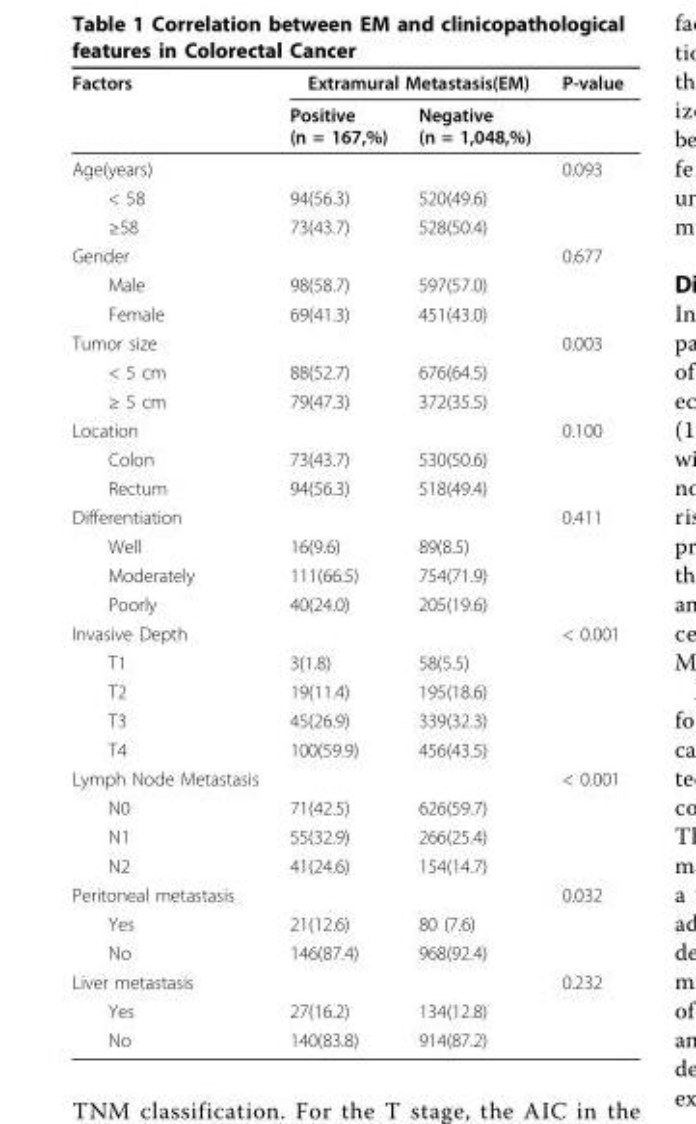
<table><thead><tr><td rowspan="2">Factors</td><td colspan="2">Extramural Metastasis(EM)</td><td rowspan="2">P-value</td></tr><tr><td>Positive (n = 167,%)</td><td>Negative (n = 1,048,%)</td></tr></thead><tbody><tr><td>Age(years)</td><td></td><td></td><td>0.093</td></tr><tr><td>&lt; 58</td><td>94(56.3)</td><td>520(49.6)</td><td></td></tr><tr><td>≥58</td><td>73(43.7)</td><td>528(50.4)</td><td></td></tr><tr><td>Gender</td><td></td><td></td><td>0.677</td></tr><tr><td>Male</td><td>98(58.7)</td><td>597(57.0)</td><td></td></tr><tr><td>Female</td><td>69(41.3)</td><td>451(43.0)</td><td></td></tr><tr><td>Tumor size</td><td></td><td></td><td>0.003</td></tr><tr><td>&lt; 5 cm</td><td>88(52.7)</td><td>676(64.5)</td><td></td></tr><tr><td>≥ 5 cm</td><td>79(47.3)</td><td>372(35.5)</td><td></td></tr><tr><td>Location</td><td></td><td></td><td>0.100</td></tr><tr><td>Colon</td><td>73(43.7)</td><td>530(50.6)</td><td></td></tr><tr><td>Rectum</td><td>94(56.3)</td><td>518(49.4)</td><td></td></tr><tr><td>Differentiation</td><td></td><td></td><td>0.411</td></tr><tr><td>Well</td><td>16(9.6)</td><td>89(8.5)</td><td></td></tr><tr><td>Moderately</td><td>111(66.5)</td><td>754(71.9)</td><td></td></tr><tr><td>Poorly</td><td>40(24.0)</td><td>205(19.6)</td><td></td></tr><tr><td>Invasive Depth</td><td></td><td></td><td>&lt; 0.001</td></tr><tr><td>T1</td><td>3(1.8)</td><td>58(5.5)</td><td></td></tr><tr><td>T2</td><td>19(11.4)</td><td>195(18.6)</td><td></td></tr><tr><td>T3</td><td>45(26.9)</td><td>339(32.3)</td><td></td></tr><tr><td>T4</td><td>100(59.9)</td><td>456(43.5)</td><td></td></tr><tr><td>Lymph Node Metastasis</td><td></td><td></td><td>&lt; 0.001</td></tr><tr><td>N0</td><td>71(42.5)</td><td>626(59.7)</td><td></td></tr><tr><td>N1</td><td>55(32.9)</td><td>266(25.4)</td><td></td></tr><tr><td>N2</td><td>41(24.6)</td><td>154(14.7)</td><td></td></tr><tr><td>Peritoneal metastasis</td><td></td><td></td><td>0.032</td></tr><tr><td>Yes</td><td>21(12.6)</td><td>80 (7.6)</td><td></td></tr><tr><td>No</td><td>146(87.4)</td><td>968(92.4)</td><td></td></tr><tr><td>Liver metastasis</td><td></td><td></td><td>0.232</td></tr><tr><td>Yes</td><td>27(16.2)</td><td>134(12.8)</td><td></td></tr><tr><td>No</td><td>140(83.8)</td><td>914(87.2)</td><td></td></tr></tbody></table>